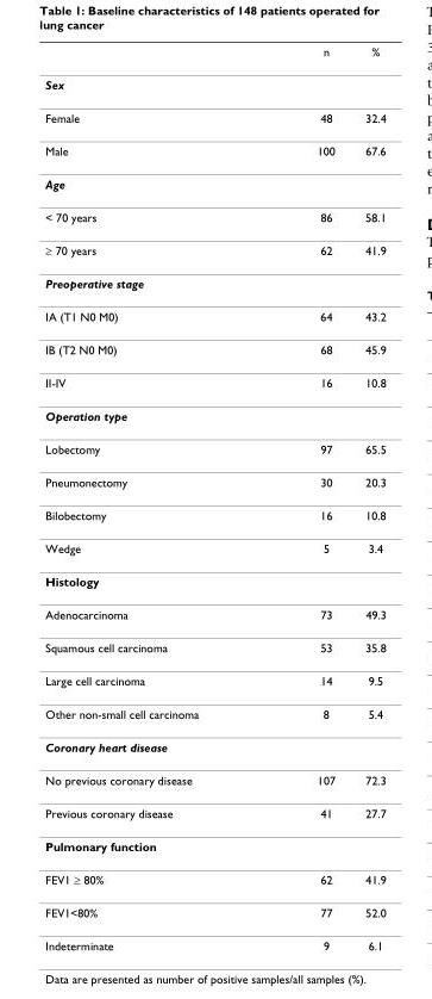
<table><thead><tr><td></td><td>n</td><td>%</td></tr></thead><tbody><tr><td colspan="3">Sex</td></tr><tr><td>Female</td><td>48</td><td>32.4</td></tr><tr><td>Male</td><td>100</td><td>67.6</td></tr><tr><td colspan="3">Age</td></tr><tr><td>&lt; 70 years</td><td>86</td><td>58.1</td></tr><tr><td>≥ 70 years</td><td>62</td><td>41.9</td></tr><tr><td colspan="3">Preoperative stage</td></tr><tr><td>IA (T1 N0 M0)</td><td>64</td><td>43.2</td></tr><tr><td>IB (T2 N0 M0)</td><td>68</td><td>45.9</td></tr><tr><td>II-IV</td><td>16</td><td>10.8</td></tr><tr><td colspan="3">Operation type</td></tr><tr><td>Lobectomy</td><td>97</td><td>65.5</td></tr><tr><td>Pneumonectomy</td><td>30</td><td>20.3</td></tr><tr><td>Bilobectomy</td><td>16</td><td>10.8</td></tr><tr><td>Wedge</td><td>5</td><td>3.4</td></tr><tr><td colspan="3">Histology</td></tr><tr><td>Adenocarcinoma</td><td>73</td><td>49.3</td></tr><tr><td>Squamous cell carcinoma</td><td>53</td><td>35.8</td></tr><tr><td>Large cell carcinoma</td><td>14</td><td>9.5</td></tr><tr><td>Other non-small cell carcinoma</td><td>8</td><td>5.4</td></tr><tr><td colspan="3">Coronary heart disease</td></tr><tr><td>No previous coronary disease</td><td>107</td><td>72.3</td></tr><tr><td>Previous coronary disease</td><td>41</td><td>27.7</td></tr><tr><td colspan="3">Pulmonary function</td></tr><tr><td>FEV1 ≥ 80%</td><td>62</td><td>41.9</td></tr><tr><td>FEV1&lt;80%</td><td>77</td><td>52.0</td></tr><tr><td>Indeterminate</td><td>9</td><td>6.1</td></tr></tbody></table>